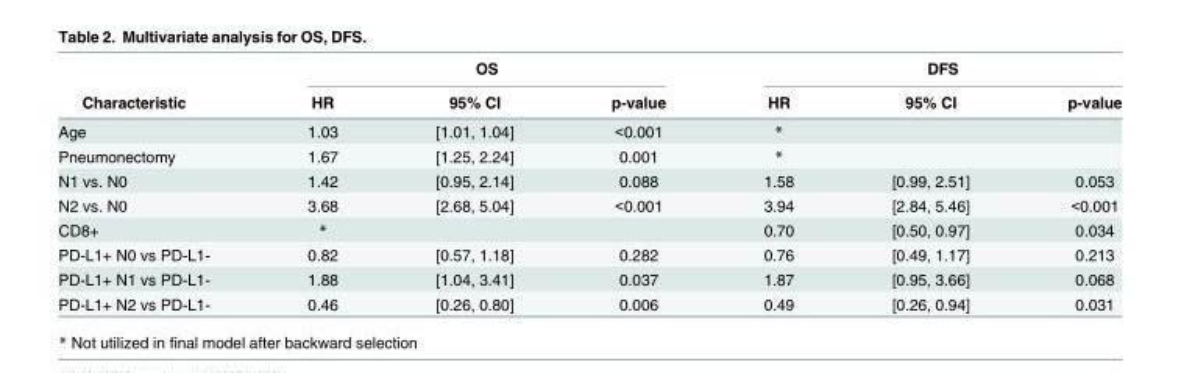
<table><thead><tr><td rowspan="2">Characteristic</td><td colspan="3">OS</td><td colspan="3">DFS</td></tr><tr><td>HR</td><td>95% CI</td><td>p-value</td><td>HR</td><td>95% CI</td><td>p-value</td></tr></thead><tbody><tr><td>Age</td><td>1.03</td><td>[1.01, 1.04]</td><td>&lt;0.001</td><td>*</td><td></td><td></td></tr><tr><td>Pneumonectomy</td><td>1.67</td><td>[1.25, 2.24]</td><td>0.001</td><td>*</td><td></td><td></td></tr><tr><td>N1 vs. N0</td><td>1.42</td><td>[0.95, 2.14]</td><td>0.088</td><td>1.58</td><td>[0.99, 2.51]</td><td>0.053</td></tr><tr><td>N2 vs. N0</td><td>3.68</td><td>[2.68, 5.04]</td><td>&lt;0.001</td><td>3.94</td><td>[2.84, 5.46]</td><td>&lt;0.001</td></tr><tr><td>CD8+</td><td>*</td><td></td><td></td><td>0.70</td><td>[0.50, 0.97]</td><td>0.034</td></tr><tr><td>PD-L1+ N0 vs PD-L1-</td><td>0.82</td><td>[0.57, 1.18]</td><td>0.282</td><td>0.76</td><td>[0.49, 1.17]</td><td>0.213</td></tr><tr><td>PD-L1+ N1 vs PD-L1-</td><td>1.88</td><td>[1.04, 3.41]</td><td>0.037</td><td>1.87</td><td>[0.95, 3.66]</td><td>0.068</td></tr><tr><td>PD-L1+ N2 vs PD-L1-</td><td>0.46</td><td>[0.26, 0.80]</td><td>0.006</td><td>0.49</td><td>[0.26, 0.94]</td><td>0.031</td></tr></tbody></table>